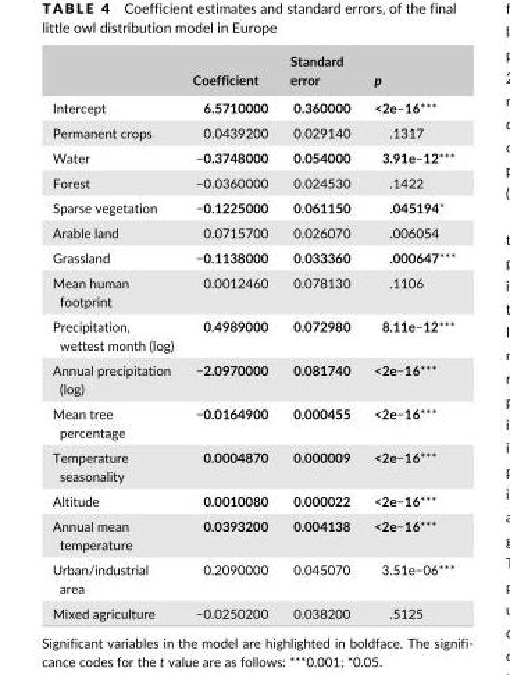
<table><thead><tr><td></td><td>Coefficient</td><td>Standard error</td><td>p</td></tr></thead><tbody><tr><td>Intercept</td><td>6.5710000</td><td>0.360000</td><td>&lt;2e−16***</td></tr><tr><td>Permanent crops</td><td>0.0439200</td><td>0.029140</td><td>.1317</td></tr><tr><td>Water</td><td>−0.3748000</td><td>0.054000</td><td>3.91e−12***</td></tr><tr><td>Forest</td><td>−0.0360000</td><td>0.024530</td><td>.1422</td></tr><tr><td>Sparse vegetation</td><td>−0.1225000</td><td>0.061150</td><td>.045194*</td></tr><tr><td>Arable land</td><td>0.0715700</td><td>0.026070</td><td>.006054</td></tr><tr><td>Grassland</td><td>−0.1138000</td><td>0.033360</td><td>.000647***</td></tr><tr><td>Mean human footprint</td><td>0.0012460</td><td>0.078130</td><td>.1106</td></tr><tr><td>Precipitation, wettest month (log)</td><td>0.4989000</td><td>0.072980</td><td>8.11e−12***</td></tr><tr><td>Annual precipitation (log)</td><td>−2.0970000</td><td>0.081740</td><td>&lt;2e−16***</td></tr><tr><td>Mean tree percentage</td><td>−0.0164900</td><td>0.000455</td><td>&lt;2e−16***</td></tr><tr><td>Temperature seasonality</td><td>0.0004870</td><td>0.000009</td><td>&lt;2e−16***</td></tr><tr><td>Altitude</td><td>0.0010080</td><td>0.000022</td><td>&lt;2e−16***</td></tr><tr><td>Annual mean temperature</td><td>0.0393200</td><td>0.004138</td><td>&lt;2e−16***</td></tr><tr><td>Urban/industrial area</td><td>0.2090000</td><td>0.045070</td><td>3.51e−06***</td></tr><tr><td>Mixed agriculture</td><td>−0.0250200</td><td>0.038200</td><td>.5125</td></tr></tbody></table>